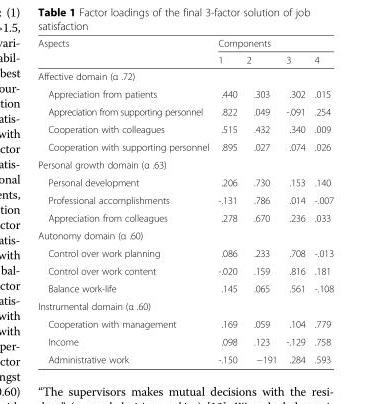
<table><thead><tr><td rowspan="2">Aspects</td><td colspan="4">Components</td></tr><tr><td>1</td><td>2</td><td>3</td><td>4</td></tr></thead><tbody><tr><td colspan="5">Affective domain (α .72)</td></tr><tr><td>Appreciation from patients</td><td>.440</td><td>.303</td><td>.302</td><td>.015</td></tr><tr><td>Appreciation from supporting personnel</td><td>.822</td><td>.049</td><td>-.091</td><td>.254</td></tr><tr><td>Cooperation with colleagues</td><td>.515</td><td>.432</td><td>.340</td><td>.009</td></tr><tr><td>Cooperation with supporting personnel</td><td>.895</td><td>.027</td><td>.074</td><td>.026</td></tr><tr><td colspan="5">Personal growth domain (α .63)</td></tr><tr><td>Personal development</td><td>.206</td><td>.730</td><td>.153</td><td>.140</td></tr><tr><td>Professional accomplishments</td><td>-.131</td><td>.786</td><td>.014</td><td>-.007</td></tr><tr><td>Appreciation from colleagues</td><td>.278</td><td>.670</td><td>.236</td><td>.033</td></tr><tr><td colspan="5">Autonomy domain (α .60)</td></tr><tr><td>Control over work planning</td><td>.086</td><td>.233</td><td>.708</td><td>-.013</td></tr><tr><td>Control over work content</td><td>-.020</td><td>.159</td><td>.816</td><td>.181</td></tr><tr><td>Balance work-life</td><td>.145</td><td>.065</td><td>.561</td><td>-.108</td></tr><tr><td colspan="5">Instrumental domain (α .60)</td></tr><tr><td>Cooperation with management</td><td>.169</td><td>.059</td><td>.104</td><td>.779</td></tr><tr><td>Income</td><td>.098</td><td>.123</td><td>-.129</td><td>.758</td></tr><tr><td>Administrative work</td><td>-.150</td><td>−191</td><td>.284</td><td>.593</td></tr></tbody></table>